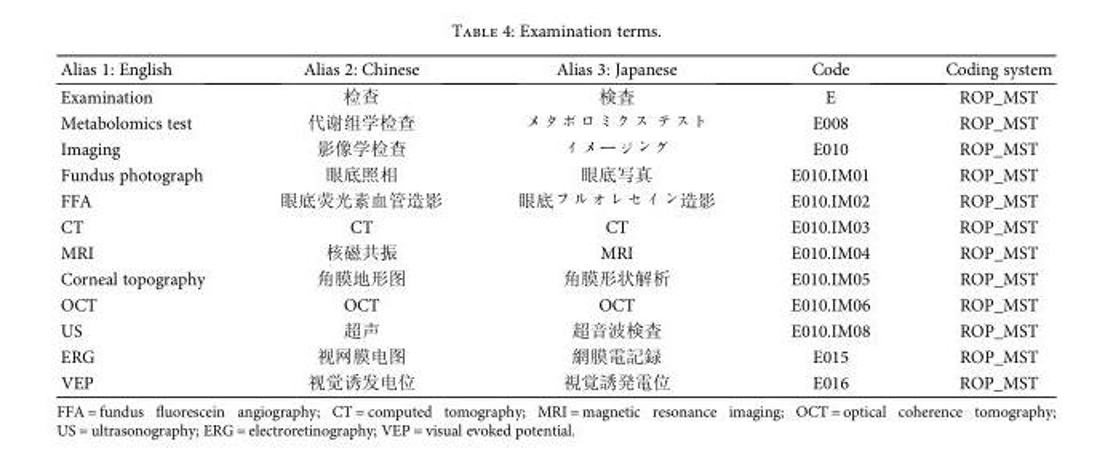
<table><thead><tr><td>Alias 1: English</td><td>Alias 2: Chinese</td><td>Alias 3: Japanese</td><td>Code</td><td>Coding system</td></tr></thead><tbody><tr><td>Examination</td><td>检查</td><td>検査</td><td>E</td><td>ROP_MST</td></tr><tr><td>Metabolomics test</td><td>代谢组学检查</td><td>メタボロミクス テスト</td><td>E008</td><td>ROP_MST</td></tr><tr><td>Imaging</td><td>影像学检查</td><td>イメージング</td><td>E010</td><td>ROP_MST</td></tr><tr><td>Fundus photograph</td><td>眼底照相</td><td>眼底写真</td><td>E010.IM01</td><td>ROP_MST</td></tr><tr><td>FFA</td><td>眼底荧光素血管造影</td><td>眼底フルオレセイン造影</td><td>E010.IM02</td><td>ROP_MST</td></tr><tr><td>CT</td><td>CT</td><td>CT</td><td>E010.IM03</td><td>ROP_MST</td></tr><tr><td>MRI</td><td>核磁共振</td><td>MRI</td><td>E010.IM04</td><td>ROP_MST</td></tr><tr><td>Corneal topography</td><td>角膜地形图</td><td>角膜形状解析</td><td>E010.IM05</td><td>ROP_MST</td></tr><tr><td>OCT</td><td>OCT</td><td>OCT</td><td>E010.IM06</td><td>ROP_MST</td></tr><tr><td>US</td><td>超声</td><td>超音波検査</td><td>E010.IM08</td><td>ROP_MST</td></tr><tr><td>ERG</td><td>视网膜电图</td><td>網膜電記録</td><td>E015</td><td>ROP_MST</td></tr><tr><td>VEP</td><td>视觉诱发电位</td><td>視覚誘発電位</td><td>E016</td><td>ROP_MST</td></tr></tbody></table>